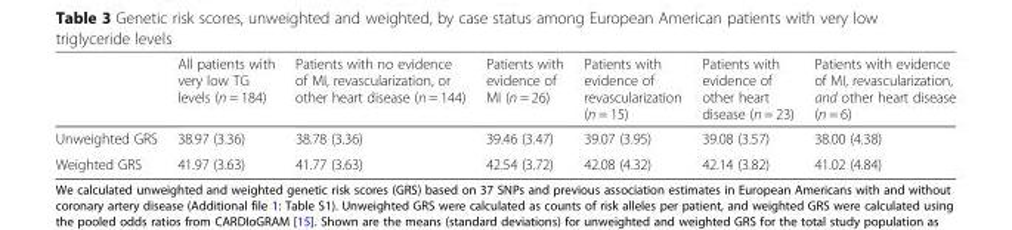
<table><thead><tr><td></td><td>All patients with very low TG levels (n = 184)</td><td>Patients with no evidence of MI, revascularization, or other heart disease (n = 144)</td><td>Patients with evidence of MI (n = 26)</td><td>Patients with evidence of revascularization (n = 15)</td><td>Patients with evidence of other heart disease (n = 23)</td><td>Patients with evidence of MI, revascularization, and other heart disease (n = 6)</td></tr></thead><tbody><tr><td>Unweighted GRS</td><td>38.97 (3.36)</td><td>38.78 (3.36)</td><td>39.46 (3.47)</td><td>39.07 (3.95)</td><td>39.08 (3.57)</td><td>38.00 (4.38)</td></tr><tr><td>Weighted GRS</td><td>41.97 (3.63)</td><td>41.77 (3.63)</td><td>42.54 (3.72)</td><td>42.08 (4.32)</td><td>42.14 (3.82)</td><td>41.02 (4.84)</td></tr></tbody></table>